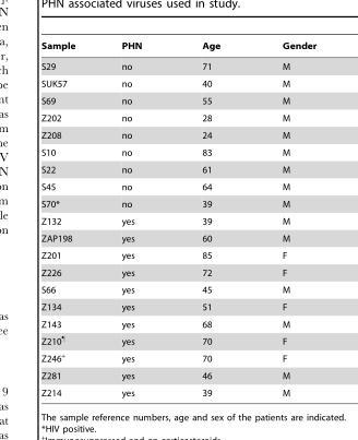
<table><thead><tr><td>Sample</td><td>PHN</td><td>Age</td><td>Gender</td></tr></thead><tbody><tr><td>S29</td><td>no</td><td>71</td><td>M</td></tr><tr><td>SUK57</td><td>no</td><td>40</td><td>M</td></tr><tr><td>S69</td><td>no</td><td>55</td><td>M</td></tr><tr><td>Z202</td><td>no</td><td>28</td><td>M</td></tr><tr><td>Z208</td><td>no</td><td>24</td><td>M</td></tr><tr><td>S10</td><td>no</td><td>83</td><td>M</td></tr><tr><td>S22</td><td>no</td><td>61</td><td>M</td></tr><tr><td>S45</td><td>no</td><td>64</td><td>M</td></tr><tr><td>S70*</td><td>no</td><td>39</td><td>M</td></tr><tr><td>Z132</td><td>yes</td><td>39</td><td>M</td></tr><tr><td>ZAP198</td><td>yes</td><td>60</td><td>M</td></tr><tr><td>Z201</td><td>yes</td><td>85</td><td>F</td></tr><tr><td>Z226</td><td>yes</td><td>72</td><td>F</td></tr><tr><td>S66</td><td>yes</td><td>45</td><td>M</td></tr><tr><td>Z134</td><td>yes</td><td>51</td><td>F</td></tr><tr><td>Z143</td><td>yes</td><td>68</td><td>M</td></tr><tr><td>Z210¶</td><td>yes</td><td>70</td><td>F</td></tr><tr><td>Z246+</td><td>yes</td><td>70</td><td>F</td></tr><tr><td>Z281</td><td>yes</td><td>46</td><td>M</td></tr><tr><td>Z214</td><td>yes</td><td>39</td><td>M</td></tr></tbody></table>